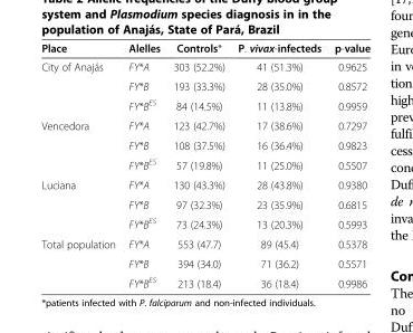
<table><thead><tr><td>Place</td><td>Alelles</td><td>Controls*</td><td>P. vivax-infecteds</td><td>p-value</td></tr></thead><tbody><tr><td rowspan="3">City of Anajás</td><td>FY*A</td><td>303 (52.2%)</td><td>41 (51.3%)</td><td>0.9625</td></tr><tr><td>FY*B</td><td>193 (33.3%)</td><td>28 (35.0%)</td><td>0.8572</td></tr><tr><td>FY*B<sup>ES</sup></td><td>84 (14.5%)</td><td>11 (13.8%)</td><td>0.9959</td></tr><tr><td rowspan="3">Vencedora</td><td>FY*A</td><td>123 (42.7%)</td><td>17 (38.6%)</td><td>0.7297</td></tr><tr><td>FY*B</td><td>108 (37.5%)</td><td>16 (36.4%)</td><td>0.9823</td></tr><tr><td>FY*B<sup>ES</sup></td><td>57 (19.8%)</td><td>11 (25.0%)</td><td>0.5507</td></tr><tr><td rowspan="3">Luciana</td><td>FY*A</td><td>130 (43.3%)</td><td>28 (43.8%)</td><td>0.9380</td></tr><tr><td>FY*B</td><td>97 (32.3%)</td><td>23 (35.9%)</td><td>0.6815</td></tr><tr><td>FY*B<sup>ES</sup></td><td>73 (24.3%)</td><td>13 (20.3%)</td><td>0.5993</td></tr><tr><td rowspan="3">Total population</td><td>FY*A</td><td>553 (47.7)</td><td>89 (45.4)</td><td>0.5378</td></tr><tr><td>FY*B</td><td>394 (34.0)</td><td>71 (36.2)</td><td>0.5571</td></tr><tr><td>FY*B<sup>ES</sup></td><td>213 (18.4)</td><td>36 (18.4)</td><td>0.9986</td></tr></tbody></table>